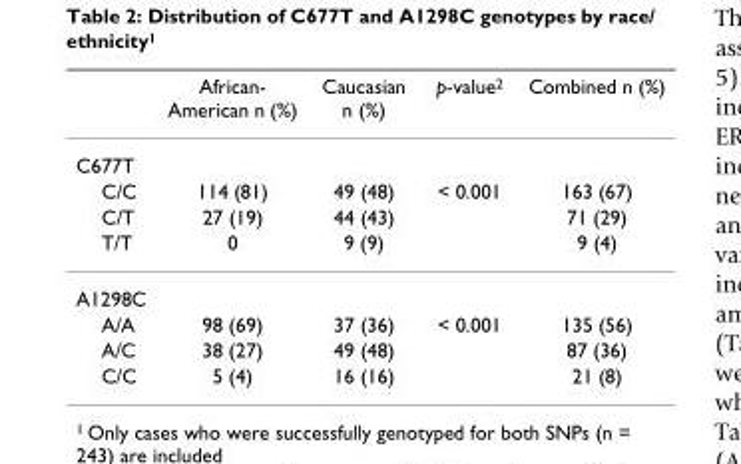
<table><thead><tr><td></td><td>African- American n (%)</td><td>Caucasian n (%)</td><td>p-value2</td><td>Combined n (%)</td></tr></thead><tbody><tr><td colspan="5">C677T</td></tr><tr><td>C/C</td><td>114 (81)</td><td>49 (48)</td><td>&lt; 0.001</td><td>163 (67)</td></tr><tr><td>C/T</td><td>27 (19)</td><td>44 (43)</td><td></td><td>71 (29)</td></tr><tr><td>T/T</td><td>0</td><td>9 (9)</td><td></td><td>9 (4)</td></tr><tr><td colspan="5">A1298C</td></tr><tr><td>A/A</td><td>98 (69)</td><td>37 (36)</td><td>&lt; 0.001</td><td>135 (56)</td></tr><tr><td>A/C</td><td>38 (27)</td><td>49 (48)</td><td></td><td>87 (36)</td></tr><tr><td>C/C</td><td>5 (4)</td><td>16 (16)</td><td></td><td>21 (8)</td></tr></tbody></table>